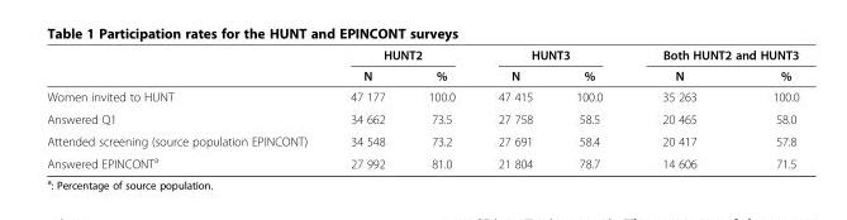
<table><thead><tr><td rowspan="2"></td><td colspan="2">HUNT2</td><td colspan="2">HUNT3</td><td colspan="2">Both HUNT2 and HUNT3</td></tr><tr><td>N</td><td>%</td><td>N</td><td>%</td><td>N</td><td>%</td></tr></thead><tbody><tr><td>Women invited to HUNT</td><td>47 177</td><td>100.0</td><td>47 415</td><td>100.0</td><td>35 263</td><td>100.0</td></tr><tr><td>Answered Q1</td><td>34 662</td><td>73.5</td><td>27 758</td><td>58.5</td><td>20 465</td><td>58.0</td></tr><tr><td>Attended screening (source population EPINCONT)</td><td>34 548</td><td>73.2</td><td>27 691</td><td>58.4</td><td>20 417</td><td>57.8</td></tr><tr><td>Answered EPINCONT<sup>a</sup></td><td>27 992</td><td>81.0</td><td>21 804</td><td>78.7</td><td>14 606</td><td>71.5</td></tr></tbody></table>